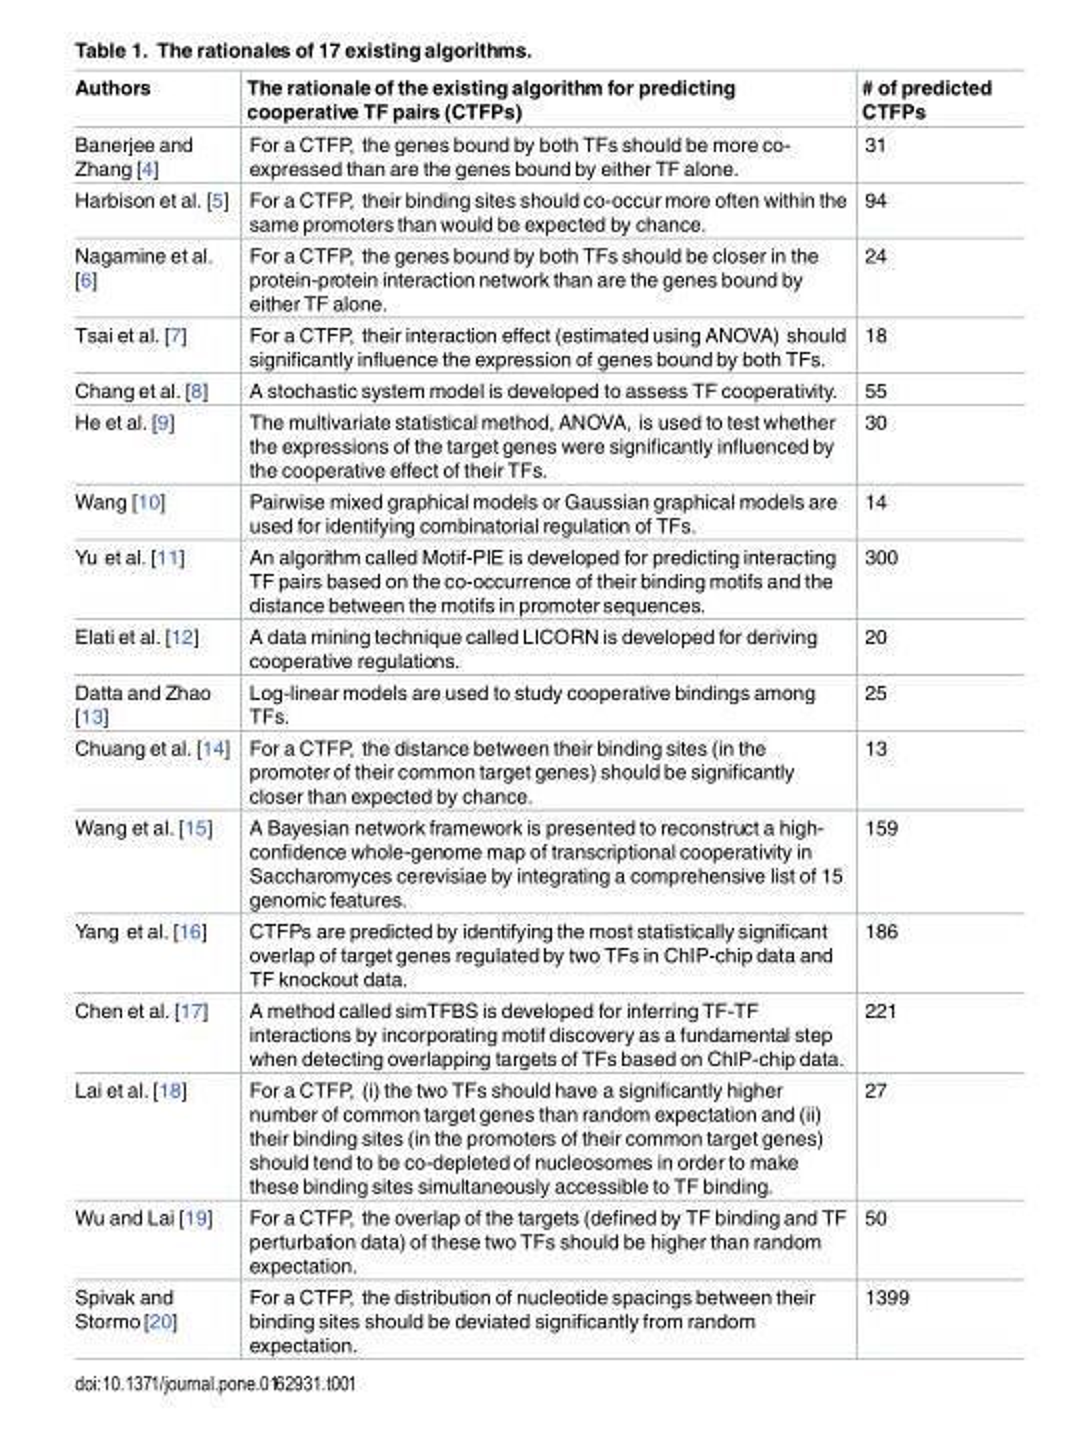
<table><thead><tr><td>Authors</td><td>The rationale of the existing algorithm for predicting cooperative TF pairs (CTFPs)</td><td># of predicted CTFPs</td></tr></thead><tbody><tr><td>Banerjee and Zhang [4]</td><td>For a CTFP, the genes bound by both TFs should be more co- expressed than are the genes bound by either TF alone.</td><td>31</td></tr><tr><td>Harbison et al. [5]</td><td>For a CTFP, their binding sites should co-occur more often within the same promoters than would be expected by chance.</td><td>94</td></tr><tr><td>Nagamine et al. [6]</td><td>For a CTFP, the genes bound by both TFs should be closer in the protein-protein interaction network than are the genes bound by either TF alone.</td><td>24</td></tr><tr><td>Tsai et al. [7]</td><td>For a CTFP, their interaction effect (estimated using ANOVA) should significantly influence the expression of genes bound by both TFs.</td><td>18</td></tr><tr><td>Chang et al. [8]</td><td>A stochastic system model is developed to assess TF cooperativity.</td><td>55</td></tr><tr><td>He et al. [9]</td><td>The multivariate statistical method, ANOVA, is used to test whether the expressions of the target genes were significantly influenced by the cooperative effect of their TFs.</td><td>30</td></tr><tr><td>Wang [10]</td><td>Pairwise mixed graphical models or Gaussian graphical models are used for identifying combinatorial regulation of TFs.</td><td>14</td></tr><tr><td>Yu et al. [11]</td><td>An algorithm called Motif-PIE is developed for predicting interacting TF pairs based on the co-occurrence of their binding motifs and the distance between the motifs in promoter sequences.</td><td>300</td></tr><tr><td>Elati et al. [12]</td><td>A data mining technique called LICORN is developed for deriving cooperative regulations.</td><td>20</td></tr><tr><td>Datta and Zhao [13]</td><td>Log-linear models are used to study cooperative bindings among TFs.</td><td>25</td></tr><tr><td>Chuang et al. [14]</td><td>For a CTFP, the distance between their binding sites (in the promoter of their common target genes) should be significantly closer than expected by chance.</td><td>13</td></tr><tr><td>Wang et al. [15]</td><td>A Bayesian network framework is presented to reconstruct a high- confidence whole-genome map of transcriptional cooperativity in Saccharomyces cerevisiae by integrating a comprehensive list of 15 genomic features.</td><td>159</td></tr><tr><td>Yang et al. [16]</td><td>CTFPs are predicted by identifying the most statistically significant overlap of target genes regulated by two TFs in ChIP-chip data and TF knockout data.</td><td>186</td></tr><tr><td>Chen et al. [17]</td><td>A method called simTFBS is developed for inferring TF-TF interactions by incorporating motif discovery as a fundamental step when detecting overlapping targets of TFs based on ChIP-chip data.</td><td>221</td></tr><tr><td>Lai et al. [18]</td><td>For a CTFP, (i) the two TFs should have a significantly higher number of common target genes than random expectation and (ii) their binding sites (in the promoters of their common target genes) should tend to be co-depleted of nucleosomes in order to make these binding sites simultaneously accessible to TF binding.</td><td>27</td></tr><tr><td>Wu and Lai [19]</td><td>For a CTFP, the overlap of the targets (defined by TF binding and TF perturbation data) of these two TFs should be higher than random expectation.</td><td>50</td></tr><tr><td>Spivak and Stormo [20]</td><td>For a CTFP, the distribution of nucleotide spacings between their binding sites should be deviated significantly from random expectation.</td><td>1399</td></tr></tbody></table>